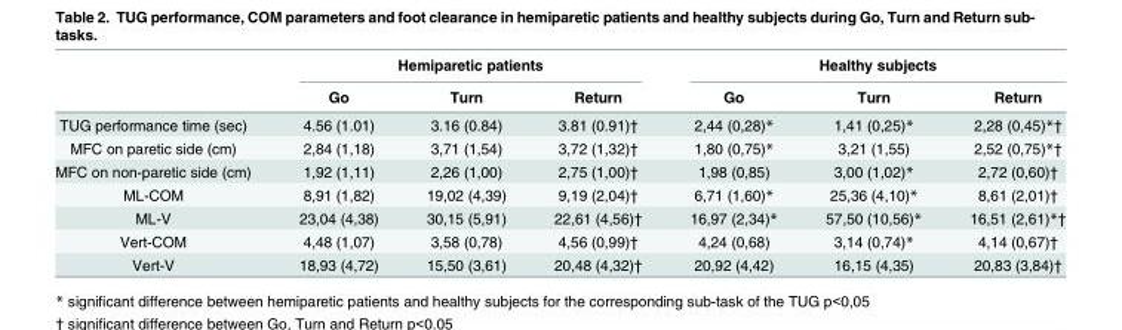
<table><thead><tr><td rowspan="2"></td><td colspan="3">Hemiparetic patients</td><td colspan="3">Healthy subjects</td></tr><tr><td>Go</td><td>Turn</td><td>Return</td><td>Go</td><td>Turn</td><td>Return</td></tr></thead><tbody><tr><td>TUG performance time (sec)</td><td>4.56 (1.01)</td><td>3.16 (0.84)</td><td>3.81 (0.91)†</td><td>2,44 (0,28)*</td><td>1,41 (0,25)*</td><td>2,28 (0,45)*†</td></tr><tr><td>MFC on paretic side (cm)</td><td>2,84 (1,18)</td><td>3,71 (1,54)</td><td>3,72 (1,32)†</td><td>1,80 (0,75)*</td><td>3,21 (1,55)</td><td>2,52 (0,75)*†</td></tr><tr><td>MFC on non-paretic side (cm)</td><td>1,92 (1,11)</td><td>2,26 (1,00)</td><td>2,75 (1,00)†</td><td>1,98 (0,85)</td><td>3,00 (1,02)*</td><td>2,72 (0,60)†</td></tr><tr><td>ML-COM</td><td>8,91 (1,82)</td><td>19,02 (4,39)</td><td>9,19 (2,04)†</td><td>6,71 (1,60)*</td><td>25,36 (4,10)*</td><td>8,61 (2,01)†</td></tr><tr><td>ML-V</td><td>23,04 (4,38)</td><td>30,15 (5,91)</td><td>22,61 (4,56)†</td><td>16,97 (2,34)*</td><td>57,50 (10,56)*</td><td>16,51 (2,61)*†</td></tr><tr><td>Vert-COM</td><td>4,48 (1,07)</td><td>3,58 (0,78)</td><td>4,56 (0,99)†</td><td>4,24 (0,68)</td><td>3,14 (0,74)*</td><td>4,14 (0,67)†</td></tr><tr><td>Vert-V</td><td>18,93 (4,72)</td><td>15,50 (3,61)</td><td>20,48 (4,32)†</td><td>20,92 (4,42)</td><td>16,15 (4,35)</td><td>20,83 (3,84)†</td></tr></tbody></table>